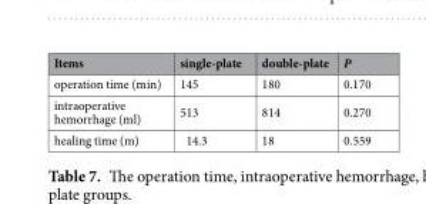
<table><thead><tr><td>Items</td><td>single-plate</td><td>double-plate</td><td>P</td></tr></thead><tbody><tr><td>operation time (min)</td><td>145</td><td>180</td><td>0.170</td></tr><tr><td>intraoperative hemorrhage (ml)</td><td>513</td><td>814</td><td>0.270</td></tr><tr><td>healing time (m)</td><td>14.3</td><td>18</td><td>0.559</td></tr></tbody></table>